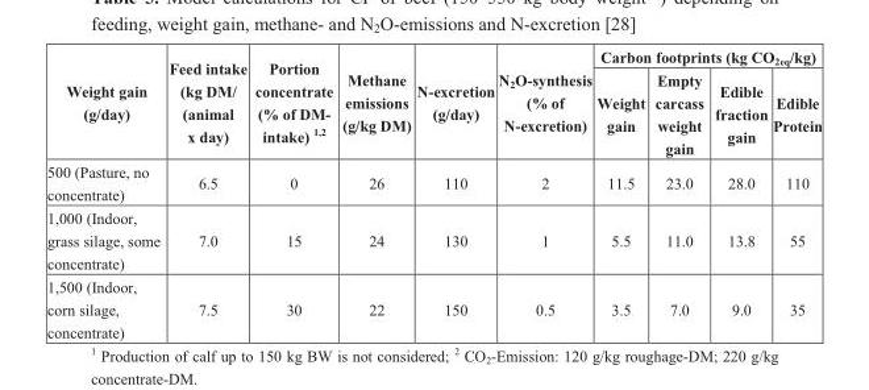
<table><thead><tr><td rowspan="2">Weight gain (g/day)</td><td rowspan="2">Feed intake (kg DM/ (animal x day)</td><td rowspan="2">Portion concentrate (% of DM- intake) <sup>1,2</sup></td><td rowspan="2">Methane emissions (g/kg DM)</td><td rowspan="2">N-excretion (g/day)</td><td rowspan="2">N<sub>2</sub>O-synthesis (% of N-excretion)</td><td colspan="4">Carbon footprints (kg CO<sub>2eq</sub>/kg)</td></tr><tr><td>Weight gain</td><td>Empty carcass weight gain</td><td>Edible fraction gain</td><td>Edible Protein</td></tr></thead><tbody><tr><td>500 (Pasture, no concentrate)</td><td>6.5</td><td>0</td><td>26</td><td>110</td><td>2</td><td>11.5</td><td>23.0</td><td>28.0</td><td>110</td></tr><tr><td>1,000 (Indoor, grass silage, some concentrate)</td><td>7.0</td><td>15</td><td>24</td><td>130</td><td>1</td><td>5.5</td><td>11.0</td><td>13.8</td><td>55</td></tr><tr><td>1,500 (Indoor, corn silage, concentrate)</td><td>7.5</td><td>30</td><td>22</td><td>150</td><td>0.5</td><td>3.5</td><td>7.0</td><td>9.0</td><td>35</td></tr></tbody></table>